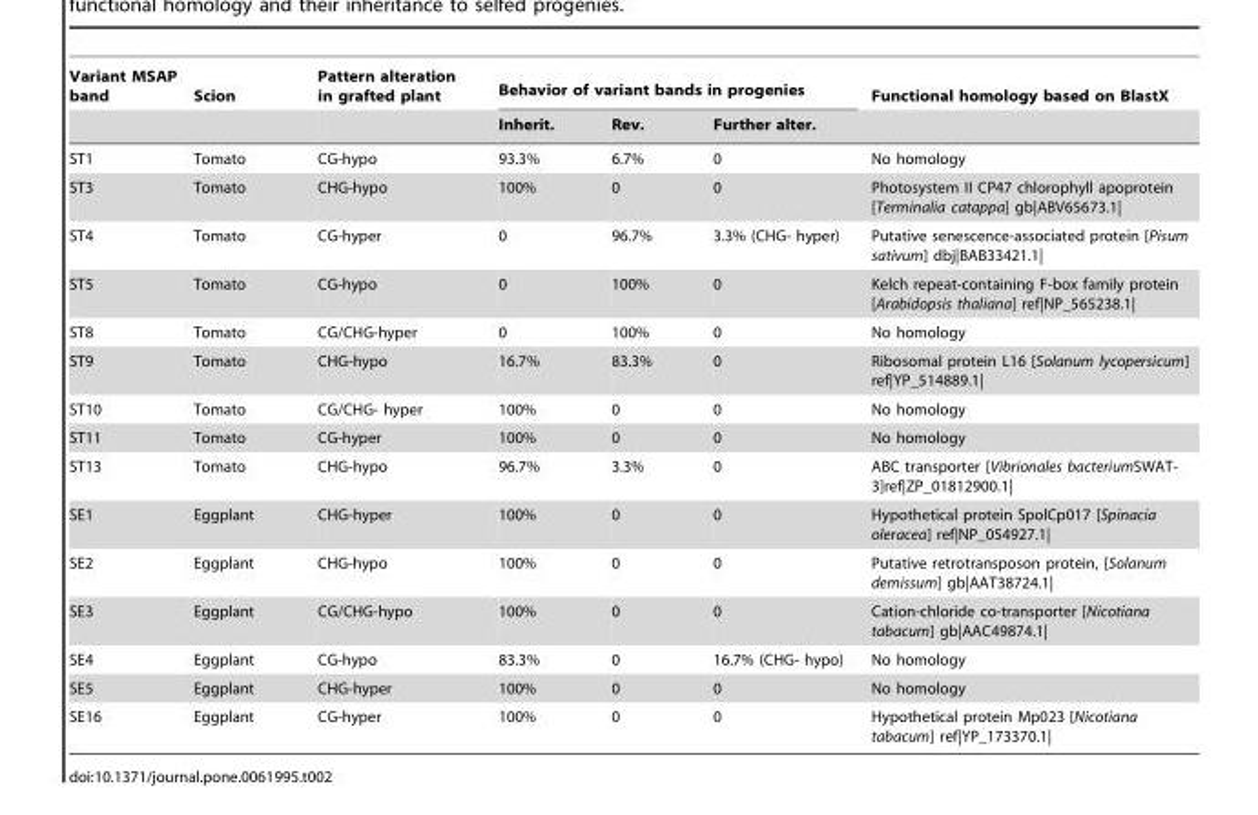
<table><thead><tr><td rowspan="2">Variant MSAP band</td><td rowspan="2">Scion</td><td rowspan="2">Pattern alteration in grafted plant</td><td colspan="3">Behavior of variant bands in progenies</td><td rowspan="2">Functional homology based on BlastX</td></tr><tr><td>Inherit.</td><td>Rev.</td><td>Further alter.</td></tr></thead><tbody><tr><td>ST1</td><td>Tomato</td><td>CG-hypo</td><td>93.3%</td><td>6.7%</td><td>0</td><td>No homology</td></tr><tr><td>ST3</td><td>Tomato</td><td>CHG-hypo</td><td>100%</td><td>0</td><td>0</td><td>Photosystem II CP47 chlorophyll apoprotein [Terminalia catappa] gb|ABV65673.1|</td></tr><tr><td>ST4</td><td>Tomato</td><td>CG-hyper</td><td>0</td><td>96.7%</td><td>3.3% (CHG- hyper)</td><td>Putative senescence-associated protein [Pisum sativum] dbj|BAB33421.1|</td></tr><tr><td>ST5</td><td>Tomato</td><td>CG-hypo</td><td>0</td><td>100%</td><td>0</td><td>Kelch repeat-containing F-box family protein [Arabidopsis thaliana] ref|NP_565238.1|</td></tr><tr><td>ST8</td><td>Tomato</td><td>CG/CHG-hyper</td><td>0</td><td>100%</td><td>0</td><td>No homology</td></tr><tr><td>ST9</td><td>Tomato</td><td>CHG-hypo</td><td>16.7%</td><td>83.3%</td><td>0</td><td>Ribosomal protein L16 [Solanum lycopersicum] ref|YP_514889.1|</td></tr><tr><td>ST10</td><td>Tomato</td><td>CG/CHG- hyper</td><td>100%</td><td>0</td><td>0</td><td>No homology</td></tr><tr><td>ST11</td><td>Tomato</td><td>CG-hyper</td><td>100%</td><td>0</td><td>0</td><td>No homology</td></tr><tr><td>ST13</td><td>Tomato</td><td>CHG-hypo</td><td>96.7%</td><td>3.3%</td><td>0</td><td>ABC transporter [Vibrionales bacteriumSWAT- 3]ref|ZP_01812900.1|</td></tr><tr><td>SE1</td><td>Eggplant</td><td>CHG-hyper</td><td>100%</td><td>0</td><td>0</td><td>Hypothetical protein SpolCp017 [Spinacia oleracea] ref|NP_054927.1|</td></tr><tr><td>SE2</td><td>Eggplant</td><td>CHG-hypo</td><td>100%</td><td>0</td><td>0</td><td>Putative retrotransposon protein, [Solanum demissum] gb|AAT38724.1|</td></tr><tr><td>SE3</td><td>Eggplant</td><td>CG/CHG-hypo</td><td>100%</td><td>0</td><td>0</td><td>Cation-chloride co-transporter [Nicotiana tabacum] gb|AAC49874.1|</td></tr><tr><td>SE4</td><td>Eggplant</td><td>CG-hypo</td><td>83.3%</td><td>0</td><td>16.7% (CHG- hypo)</td><td>No homology</td></tr><tr><td>SE5</td><td>Eggplant</td><td>CHG-hyper</td><td>100%</td><td>0</td><td>0</td><td>No homology</td></tr><tr><td>SE16</td><td>Eggplant</td><td>CG-hyper</td><td>100%</td><td>0</td><td>0</td><td>Hypothetical protein Mp023 [Nicotiana tabacum] ref|YP_173370.1|</td></tr></tbody></table>